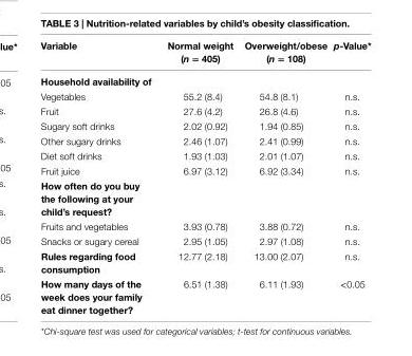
<table><thead><tr><td>Variable</td><td>normal weight (n = 405)</td><td>Overweight/obese (n = 108)</td><td>p-Value*</td></tr></thead><tbody><tr><td colspan="4">household availability of</td></tr><tr><td>Vegetables</td><td>55.2 (8.4)</td><td>54.8 (8.1)</td><td>n.s.</td></tr><tr><td>Fruit</td><td>27.6 (4.2)</td><td>26.8 (4.6)</td><td>n.s.</td></tr><tr><td>Sugary soft drinks</td><td>2.02 (0.92)</td><td>1.94 (0.85)</td><td>n.s.</td></tr><tr><td>Other sugary drinks</td><td>2.46 (1.07)</td><td>2.41 (0.99)</td><td>n.s.</td></tr><tr><td>Diet soft drinks</td><td>1.93 (1.03)</td><td>2.01 (1.07)</td><td>n.s.</td></tr><tr><td>Fruit juice</td><td>6.97 (3.12)</td><td>6.92 (3.34)</td><td>n.s.</td></tr><tr><td colspan="4">how often do you buy the following at your child’s request?</td></tr><tr><td>Fruits and vegetables</td><td>3.93 (0.78)</td><td>3.88 (0.72)</td><td>n.s.</td></tr><tr><td>Snacks or sugary cereal</td><td>2.95 (1.05)</td><td>2.97 (1.08)</td><td>n.s.</td></tr><tr><td>rules regarding food consumption</td><td>12.77 (2.18)</td><td>13.00 (2.07)</td><td>n.s.</td></tr><tr><td>how many days of the week does your family eat dinner together?</td><td>6.51 (1.38)</td><td>6.11 (1.93)</td><td>&lt;0.05</td></tr></tbody></table>